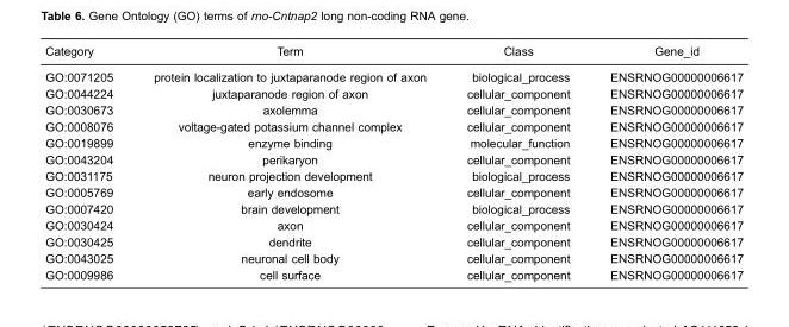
<table><thead><tr><td>Category</td><td>Term</td><td>Class</td><td>Gene_id</td></tr></thead><tbody><tr><td>GO:0071205</td><td>protein localization to juxtaparanode region of axon</td><td>biological_process</td><td>ENSRNOG00000006617</td></tr><tr><td>GO:0044224</td><td>juxtaparanode region of axon</td><td>cellular_component</td><td>ENSRNOG00000006617</td></tr><tr><td>GO:0030673</td><td>axolemma</td><td>cellular_component</td><td>ENSRNOG00000006617</td></tr><tr><td>GO:0008076</td><td>voltage-gated potassium channel complex</td><td>cellular_component</td><td>ENSRNOG00000006617</td></tr><tr><td>GO:0019899</td><td>enzyme binding</td><td>molecular_function</td><td>ENSRNOG00000006617</td></tr><tr><td>GO:0043204</td><td>perikaryon</td><td>cellular_component</td><td>ENSRNOG00000006617</td></tr><tr><td>GO:0031175</td><td>neuron projection development</td><td>biological_process</td><td>ENSRNOG00000006617</td></tr><tr><td>GO:0005769</td><td>early endosome</td><td>cellular_component</td><td>ENSRNOG00000006617</td></tr><tr><td>GO:0007420</td><td>brain development</td><td>biological_process</td><td>ENSRNOG00000006617</td></tr><tr><td>GO:0030424</td><td>axon</td><td>cellular_component</td><td>ENSRNOG00000006617</td></tr><tr><td>GO:0030425</td><td>dendrite</td><td>cellular_component</td><td>ENSRNOG00000006617</td></tr><tr><td>GO:0043025</td><td>neuronal cell body</td><td>cellular_component</td><td>ENSRNOG00000006617</td></tr><tr><td>GO:0009986</td><td>cell surface</td><td>cellular_component</td><td>ENSRNOG00000006617</td></tr></tbody></table>